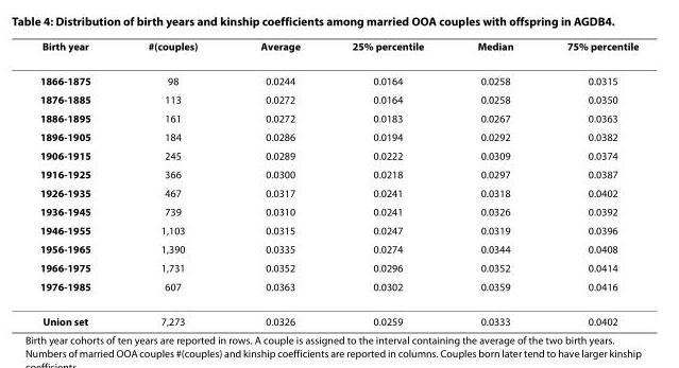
<table><thead><tr><td>Birth year</td><td>#(couples)</td><td>Average</td><td>25% percentile</td><td>Median</td><td>75% percentile</td></tr></thead><tbody><tr><td>1866-1875</td><td>98</td><td>0.0244</td><td>0.0164</td><td>0.0258</td><td>0.0315</td></tr><tr><td>1876-1885</td><td>113</td><td>0.0272</td><td>0.0164</td><td>0.0258</td><td>0.0350</td></tr><tr><td>1886-1895</td><td>161</td><td>0.0272</td><td>0.0183</td><td>0.0267</td><td>0.0363</td></tr><tr><td>1896-1905</td><td>184</td><td>0.0286</td><td>0.0194</td><td>0.0292</td><td>0.0382</td></tr><tr><td>1906-1915</td><td>245</td><td>0.0289</td><td>0.0222</td><td>0.0309</td><td>0.0374</td></tr><tr><td>1916-1925</td><td>366</td><td>0.0300</td><td>0.0218</td><td>0.0297</td><td>0.0387</td></tr><tr><td>1926-1935</td><td>467</td><td>0.0317</td><td>0.0241</td><td>0.0318</td><td>0.0402</td></tr><tr><td>1936-1945</td><td>739</td><td>0.0310</td><td>0.0241</td><td>0.0326</td><td>0.0392</td></tr><tr><td>1946-1955</td><td>1,103</td><td>0.0315</td><td>0.0247</td><td>0.0319</td><td>0.0396</td></tr><tr><td>1956-1965</td><td>1,390</td><td>0.0335</td><td>0.0274</td><td>0.0344</td><td>0.0408</td></tr><tr><td>1966-1975</td><td>1,731</td><td>0.0352</td><td>0.0296</td><td>0.0352</td><td>0.0414</td></tr><tr><td>1976-1985</td><td>607</td><td>0.0363</td><td>0.0302</td><td>0.0359</td><td>0.0416</td></tr><tr><td>Union set</td><td>7,273</td><td>0.0326</td><td>0.0259</td><td>0.0333</td><td>0.0402</td></tr></tbody></table>